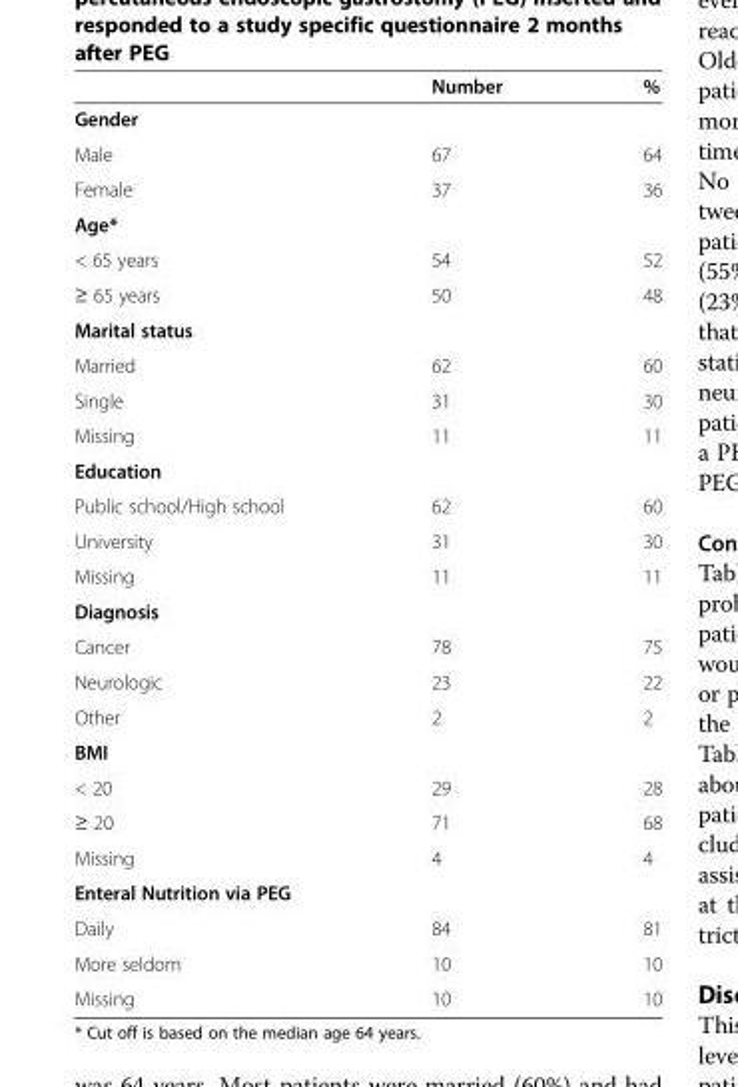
<table><thead><tr><td></td><td>Number</td><td>%</td></tr></thead><tbody><tr><td colspan="3">Gender</td></tr><tr><td>Male</td><td>67</td><td>64</td></tr><tr><td>Female</td><td>37</td><td>36</td></tr><tr><td colspan="3">Age*</td></tr><tr><td>&lt; 65 years</td><td>54</td><td>52</td></tr><tr><td>≥ 65 years</td><td>50</td><td>48</td></tr><tr><td colspan="3">Marital status</td></tr><tr><td>Married</td><td>62</td><td>60</td></tr><tr><td>Single</td><td>31</td><td>30</td></tr><tr><td>Missing</td><td>11</td><td>11</td></tr><tr><td colspan="3">Education</td></tr><tr><td>Public school/High school</td><td>62</td><td>60</td></tr><tr><td>University</td><td>31</td><td>30</td></tr><tr><td>Missing</td><td>11</td><td>11</td></tr><tr><td colspan="3">Diagnosis</td></tr><tr><td>Cancer</td><td>78</td><td>75</td></tr><tr><td>Neurologic</td><td>23</td><td>22</td></tr><tr><td>Other</td><td>2</td><td>2</td></tr><tr><td colspan="3">BMI</td></tr><tr><td>&lt; 20</td><td>29</td><td>28</td></tr><tr><td>≥ 20</td><td>71</td><td>68</td></tr><tr><td>Missing</td><td>4</td><td>4</td></tr><tr><td colspan="3">Enteral Nutrition via PEG</td></tr><tr><td>Daily</td><td>84</td><td>81</td></tr><tr><td>More seldom</td><td>10</td><td>10</td></tr><tr><td>Missing</td><td>10</td><td>10</td></tr></tbody></table>